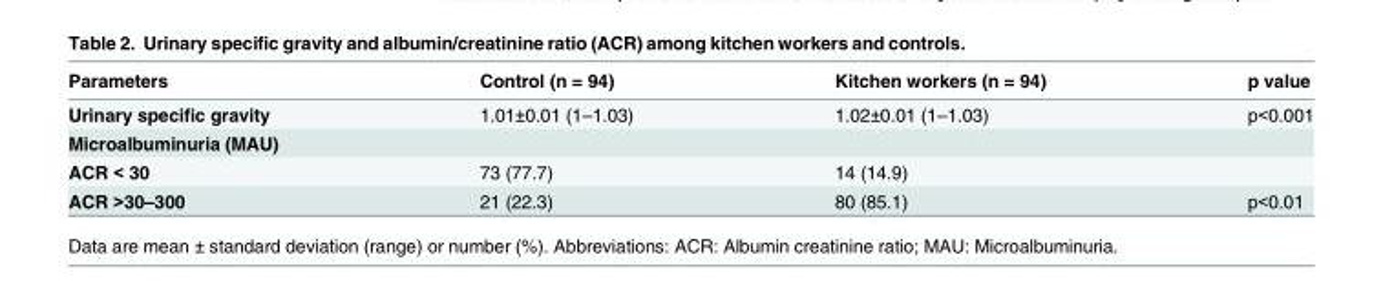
<table><thead><tr><td>Parameters</td><td>Control (n = 94)</td><td>Kitchen workers (n = 94)</td><td>p value</td></tr></thead><tbody><tr><td>Urinary specific gravity</td><td>1.01±0.01 (1–1.03)</td><td>1.02±0.01 (1–1.03)</td><td>p&lt;0.001</td></tr><tr><td colspan="4">Microalbuminuria (MAU)</td></tr><tr><td>ACR &lt; 30</td><td>73 (77.7)</td><td>14 (14.9)</td><td></td></tr><tr><td>ACR &gt;30–300</td><td>21 (22.3)</td><td>80 (85.1)</td><td>p&lt;0.01</td></tr></tbody></table>